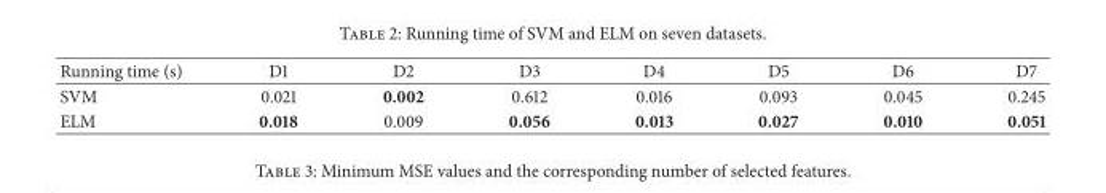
<table><thead><tr><td>Running time (s)</td><td>D1</td><td>D2</td><td>D3</td><td>D4</td><td>D5</td><td>D6</td><td>D7</td></tr></thead><tbody><tr><td>SVM</td><td>0.021</td><td>0.002</td><td>0.612</td><td>0.016</td><td>0.093</td><td>0.045</td><td>0.245</td></tr><tr><td>ELM</td><td>0.018</td><td>0.009</td><td>0.056</td><td>0.013</td><td>0.027</td><td>0.010</td><td>0.051</td></tr></tbody></table>